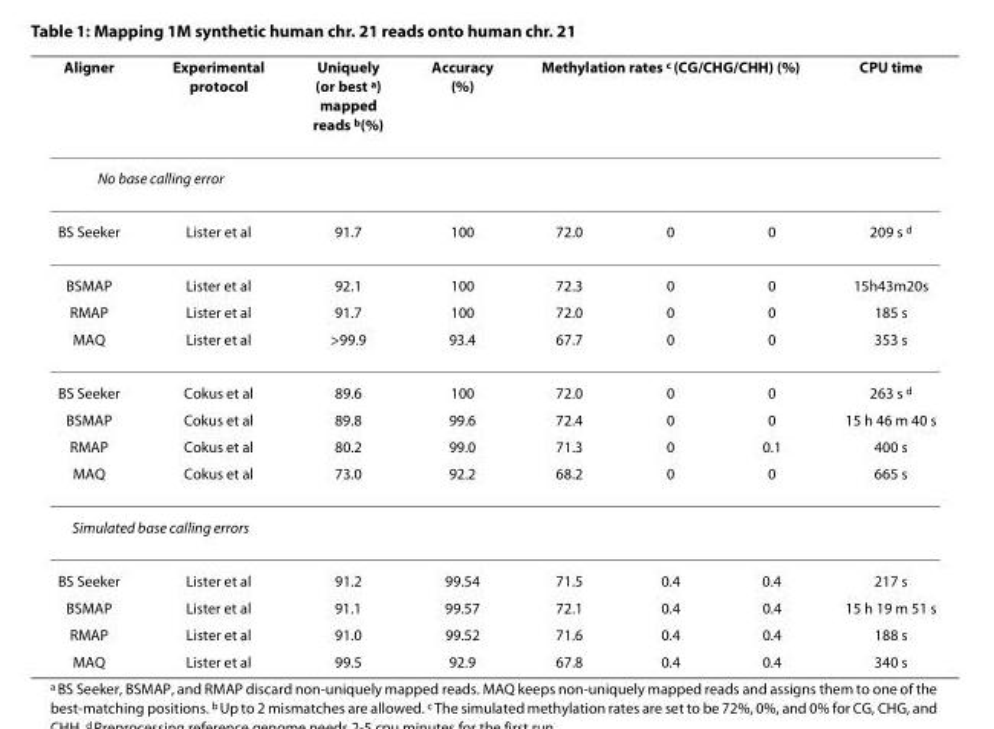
<table><thead><tr><td>Aligner</td><td>Experimental protocol</td><td rowspan="2">Uniquely (or best <sup>a</sup>) mapped reads <sup>b</sup>(%)</td><td rowspan="2">Accuracy (%)</td><td colspan="3">Methylation rates <sup>c</sup> (CG/CHG/CHH) (%)</td><td rowspan="2">CPU time</td></tr><tr><td colspan="2">No base calling error</td><td></td><td></td><td></td></tr></thead><tbody><tr><td>BS Seeker</td><td>Lister et al</td><td>91.7</td><td>100</td><td>72.0</td><td>0</td><td>0</td><td>209 s <sup>d</sup></td></tr><tr><td>BSMAP</td><td>Lister et al</td><td>92.1</td><td>100</td><td>72.3</td><td>0</td><td>0</td><td>15h43m20s</td></tr><tr><td>RMAP</td><td>Lister et al</td><td>91.7</td><td>100</td><td>72.0</td><td>0</td><td>0</td><td>185 s</td></tr><tr><td>MAQ</td><td>Lister et al</td><td>&gt;99.9</td><td>93.4</td><td>67.7</td><td>0</td><td>0</td><td>353 s</td></tr><tr><td>BS Seeker</td><td>Cokus et al</td><td>89.6</td><td>100</td><td>72.0</td><td>0</td><td>0</td><td>263 s <sup>d</sup></td></tr><tr><td>BSMAP</td><td>Cokus et al</td><td>89.8</td><td>99.6</td><td>72.4</td><td>0</td><td>0</td><td>15 h 46 m 40 s</td></tr><tr><td>RMAP</td><td>Cokus et al</td><td>80.2</td><td>99.0</td><td>71.3</td><td>0</td><td>0.1</td><td>400 s</td></tr><tr><td>MAQ</td><td>Cokus et al</td><td>73.0</td><td>92.2</td><td>68.2</td><td>0</td><td>0</td><td>665 s</td></tr><tr><td colspan="8">Simulated base calling errors</td></tr><tr><td>BS Seeker</td><td>Lister et al</td><td>91.2</td><td>99.54</td><td>71.5</td><td>0.4</td><td>0.4</td><td>217 s</td></tr><tr><td>BSMAP</td><td>Lister et al</td><td>91.1</td><td>99.57</td><td>72.1</td><td>0.4</td><td>0.4</td><td>15 h 19 m 51 s</td></tr><tr><td>RMAP</td><td>Lister et al</td><td>91.0</td><td>99.52</td><td>71.6</td><td>0.4</td><td>0.4</td><td>188 s</td></tr><tr><td>MAQ</td><td>Lister et al</td><td>99.5</td><td>92.9</td><td>67.8</td><td>0.4</td><td>0.4</td><td>340 s</td></tr></tbody></table>